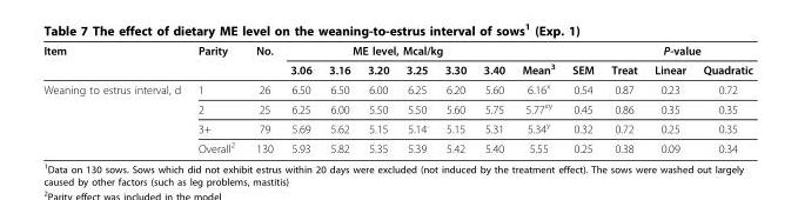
<table><thead><tr><td rowspan="2">Item</td><td rowspan="2">Parity</td><td rowspan="2">No.</td><td colspan="6">ME level, Mcal/kg</td><td rowspan="2">Mean<sup>3</sup></td><td rowspan="2">SEM</td><td colspan="3">P-value</td></tr><tr><td>3.06</td><td>3.16</td><td>3.20</td><td>3.25</td><td>3.30</td><td>3.40</td><td>Treat</td><td>Linear</td><td>Quadratic</td></tr></thead><tbody><tr><td rowspan="4">Weaning to estrus interval, d</td><td>1</td><td>26</td><td>6.50</td><td>6.50</td><td>6.00</td><td>6.25</td><td>6.20</td><td>5.60</td><td>6.16<sup>x</sup></td><td>0.54</td><td>0.87</td><td>0.23</td><td>0.72</td></tr><tr><td>2</td><td>25</td><td>6.25</td><td>6.00</td><td>5.50</td><td>5.50</td><td>5.60</td><td>5.75</td><td>5.77<sup>xy</sup></td><td>0.45</td><td>0.86</td><td>0.35</td><td>0.35</td></tr><tr><td>3+</td><td>79</td><td>5.69</td><td>5.62</td><td>5.15</td><td>5.14</td><td>5.15</td><td>5.31</td><td>5.34<sup>y</sup></td><td>0.32</td><td>0.72</td><td>0.25</td><td>0.35</td></tr><tr><td>Overall<sup>2</sup></td><td>130</td><td>5.93</td><td>5.82</td><td>5.35</td><td>5.39</td><td>5.42</td><td>5.40</td><td>5.55</td><td>0.25</td><td>0.38</td><td>0.09</td><td>0.34</td></tr></tbody></table>